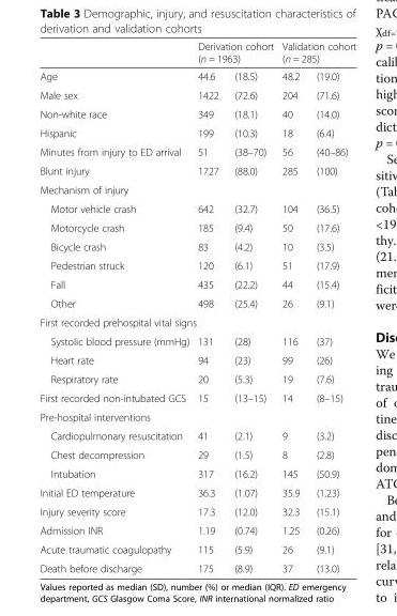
<table><thead><tr><td rowspan="2">Age</td><td colspan="2">Derivation cohort (n = 1963)</td><td colspan="2">Validation cohort (n = 285)</td></tr><tr><td>44.6</td><td>(18.5)</td><td>48.2</td><td>(19.0)</td></tr></thead><tbody><tr><td>Male sex</td><td>1422</td><td>(72.6)</td><td>204</td><td>(71.6)</td></tr><tr><td>Non-white race</td><td>349</td><td>(18.1)</td><td>40</td><td>(14.0)</td></tr><tr><td>Hispanic</td><td>199</td><td>(10.3)</td><td>18</td><td>(6.4)</td></tr><tr><td>Minutes from injury to ED arrival</td><td>51</td><td>(38–70)</td><td>56</td><td>(40–86)</td></tr><tr><td>Blunt injury</td><td>1727</td><td>(88.0)</td><td>285</td><td>(100)</td></tr><tr><td colspan="5">Mechanism of injury</td></tr><tr><td>Motor vehicle crash</td><td>642</td><td>(32.7)</td><td>104</td><td>(36.5)</td></tr><tr><td>Motorcycle crash</td><td>185</td><td>(9.4)</td><td>50</td><td>(17.6)</td></tr><tr><td>Bicycle crash</td><td>83</td><td>(4.2)</td><td>10</td><td>(3.5)</td></tr><tr><td>Pedestrian struck</td><td>120</td><td>(6.1)</td><td>51</td><td>(17.9)</td></tr><tr><td>Fall</td><td>435</td><td>(22.2)</td><td>44</td><td>(15.4)</td></tr><tr><td>Other</td><td>498</td><td>(25.4)</td><td>26</td><td>(9.1)</td></tr><tr><td colspan="5">First recorded prehospital vital signs</td></tr><tr><td>Systolic blood pressure (mmHg)</td><td>131</td><td>(28)</td><td>116</td><td>(37)</td></tr><tr><td>Heart rate</td><td>94</td><td>(23)</td><td>99</td><td>(26)</td></tr><tr><td>Respiratory rate</td><td>20</td><td>(5.3)</td><td>19</td><td>(7.6)</td></tr><tr><td>First recorded non-intubated GCS</td><td>15</td><td>(13–15)</td><td>14</td><td>(8–15)</td></tr><tr><td colspan="5">Pre-hospital interventions</td></tr><tr><td>Cardiopulmonary resuscitation</td><td>41</td><td>(2.1)</td><td>9</td><td>(3.2)</td></tr><tr><td>Chest decompression</td><td>29</td><td>(1.5)</td><td>8</td><td>(2.8)</td></tr><tr><td>Intubation</td><td>317</td><td>(16.2)</td><td>145</td><td>(50.9)</td></tr><tr><td>Initial ED temperature</td><td>36.3</td><td>(1.07)</td><td>35.9</td><td>(1.23)</td></tr><tr><td>Injury severity score</td><td>17.3</td><td>(12.0)</td><td>32.3</td><td>(15.1)</td></tr><tr><td>Admission INR</td><td>1.19</td><td>(0.74)</td><td>1.25</td><td>(0.26)</td></tr><tr><td>Acute traumatic coagulopathy</td><td>115</td><td>(5.9)</td><td>26</td><td>(9.1)</td></tr><tr><td>Death before discharge</td><td>175</td><td>(8.9)</td><td>37</td><td>(13.0)</td></tr></tbody></table>